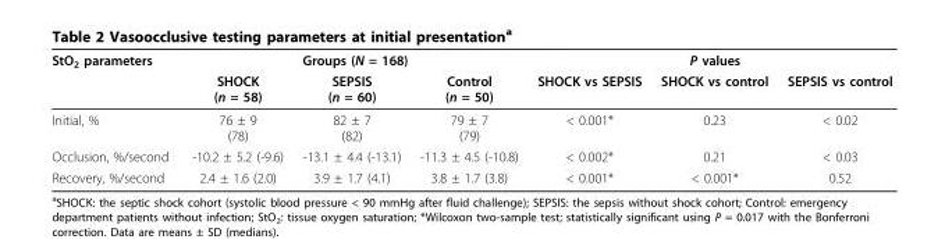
<table><thead><tr><td rowspan="2">StO<sub>2</sub> parameters</td><td colspan="3">Groups (N = 168)</td><td colspan="3">P values</td></tr><tr><td>SHOCK (n = 58)</td><td>SEPSIS (n = 60)</td><td>Control (n = 50)</td><td>SHOCK vs SEPSIS</td><td>SHOCK vs control</td><td>SEPSIS vs control</td></tr></thead><tbody><tr><td>Initial, %</td><td>76 ± 9 (78)</td><td>82 ± 7 (82)</td><td>79 ± 7 (79)</td><td>&lt; 0.001*</td><td>0.23</td><td>&lt; 0.02</td></tr><tr><td>Occlusion, %/second</td><td>-10.2 ± 5.2 (-9.6)</td><td>-13.1 ± 4.4 (-13.1)</td><td>-11.3 ± 4.5 (-10.8)</td><td>&lt; 0.002*</td><td>0.21</td><td>&lt; 0.03</td></tr><tr><td>Recovery, %/second</td><td>2.4 ± 1.6 (2.0)</td><td>3.9 ± 1.7 (4.1)</td><td>3.8 ± 1.7 (3.8)</td><td>&lt; 0.001*</td><td>&lt; 0.001*</td><td>0.52</td></tr></tbody></table>